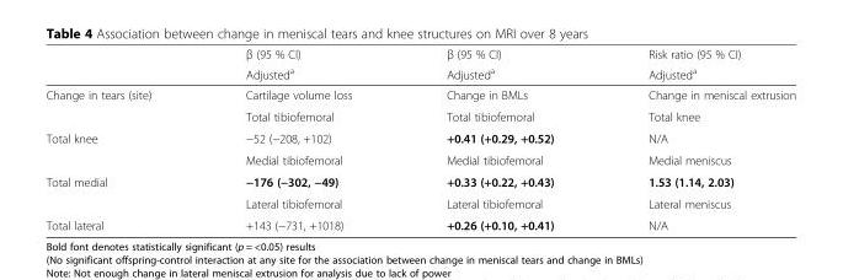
<table><thead><tr><td rowspan="2"></td><td rowspan="2">β (95 % CI) Adjusted<sup>a</sup></td><td rowspan="2">β (95 % CI) Adjusted<sup>a</sup></td><td rowspan="2">Risk ratio (95 % CI) Adjusted<sup>a</sup></td></tr><tr></tr></thead><tbody><tr><td rowspan="2">Change in tears (site)</td><td>Cartilage volume loss</td><td>Change in BMLs</td><td>Change in meniscal extrusion</td></tr><tr><td>Total tibiofemoral</td><td>Total tibiofemoral</td><td>Total knee</td></tr><tr><td rowspan="2">Total knee</td><td>−52 (−208, +102)</td><td>+0.41 (+0.29, +0.52)</td><td>N/A</td></tr><tr><td>Medial tibiofemoral</td><td>Medial tibiofemoral</td><td>Medial meniscus</td></tr><tr><td rowspan="2">Total medial</td><td>−176 (−302, −49)</td><td>+0.33 (+0.22, +0.43)</td><td>1.53 (1.14, 2.03)</td></tr><tr><td>Lateral tibiofemoral</td><td>Lateral tibiofemoral</td><td>Lateral meniscus</td></tr><tr><td>Total lateral</td><td>+143 (−731, +1018)</td><td>+0.26 (+0.10, +0.41)</td><td>N/A</td></tr></tbody></table>